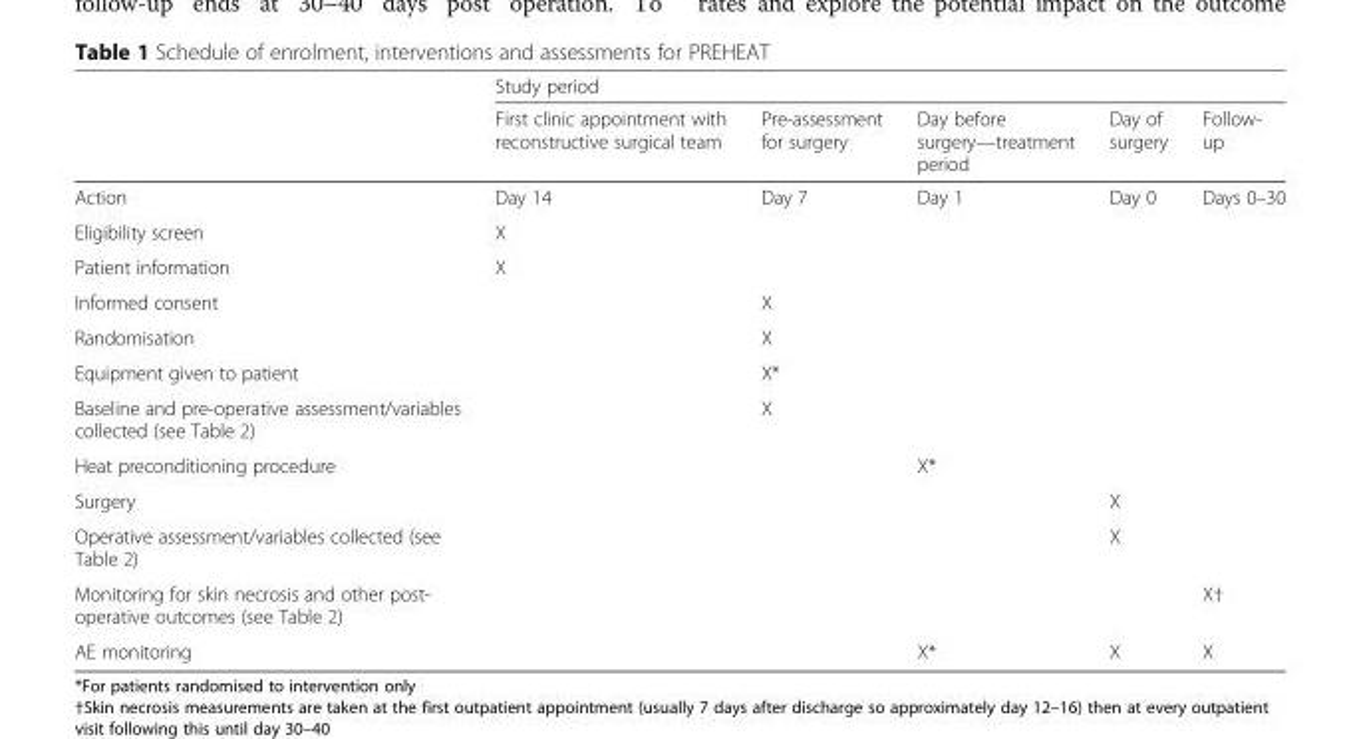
<table><thead><tr><td rowspan="2"></td><td colspan="5">Study period</td></tr><tr><td>First clinic appointment with reconstructive surgical team</td><td>Pre-assessment for surgery</td><td>Day before surgery—treatment period</td><td>Day of surgery</td><td>Follow- up</td></tr></thead><tbody><tr><td>Action</td><td>Day 14</td><td>Day 7</td><td>Day 1</td><td>Day 0</td><td>Days 0–30</td></tr><tr><td>Eligibility screen</td><td>X</td><td></td><td></td><td></td><td></td></tr><tr><td>Patient information</td><td>X</td><td></td><td></td><td></td><td></td></tr><tr><td>Informed consent</td><td></td><td>X</td><td></td><td></td><td></td></tr><tr><td>Randomisation</td><td></td><td>X</td><td></td><td></td><td></td></tr><tr><td>Equipment given to patient</td><td></td><td>X*</td><td></td><td></td><td></td></tr><tr><td>Baseline and pre-operative assessment/variables collected (see Table 2)</td><td></td><td>X</td><td></td><td></td><td></td></tr><tr><td>Heat preconditioning procedure</td><td></td><td></td><td>X*</td><td></td><td></td></tr><tr><td>Surgery</td><td></td><td></td><td></td><td>X</td><td></td></tr><tr><td>Operative assessment/variables collected (see Table 2)</td><td></td><td></td><td></td><td>X</td><td></td></tr><tr><td>Monitoring for skin necrosis and other post- operative outcomes (see Table 2)</td><td></td><td></td><td></td><td></td><td>X†</td></tr><tr><td>AE monitoring</td><td></td><td></td><td>X*</td><td>X</td><td>X</td></tr></tbody></table>